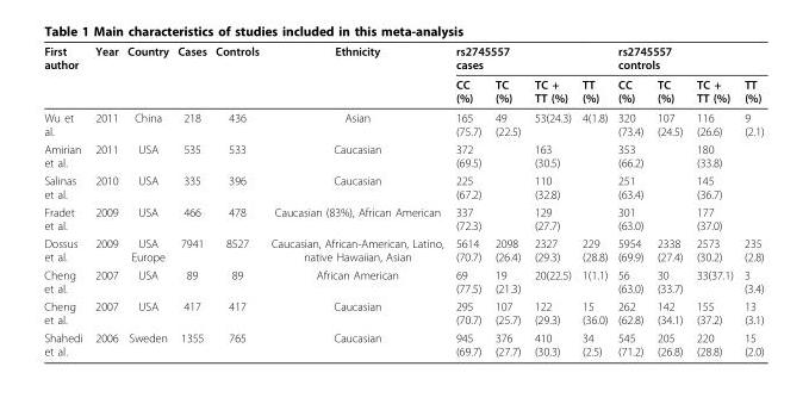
<table><thead><tr><td rowspan="2">First author</td><td rowspan="2">Year</td><td rowspan="2">Country</td><td rowspan="2">Cases</td><td rowspan="2">Controls</td><td rowspan="2">Ethnicity</td><td colspan="2">rs2745557 cases</td><td rowspan="2">TC + TT (%)</td><td rowspan="2">TT (%)</td><td colspan="2">rs2745557 controls</td><td rowspan="2">TC + TT (%)</td><td rowspan="2">TT (%)</td></tr><tr><td>CC (%)</td><td>TC (%)</td><td>CC (%)</td><td>TC (%)</td></tr></thead><tbody><tr><td>Wu et al.</td><td>2011</td><td>China</td><td>218</td><td>436</td><td>Asian</td><td>165 (75.7)</td><td>49 (22.5)</td><td>53(24.3)</td><td>4(1.8)</td><td>320 (73.4)</td><td>107 (24.5)</td><td>116 (26.6)</td><td>9 (2.1)</td></tr><tr><td>Amirian et al.</td><td>2011</td><td>USA</td><td>535</td><td>533</td><td>Caucasian</td><td>372 (69.5)</td><td></td><td>163 (30.5)</td><td></td><td>353 (66.2)</td><td></td><td>180 (33.8)</td><td></td></tr><tr><td>Salinas et al.</td><td>2010</td><td>USA</td><td>335</td><td>396</td><td>Caucasian</td><td>225 (67.2)</td><td></td><td>110 (32.8)</td><td></td><td>251 (63.4)</td><td></td><td>145 (36.7)</td><td></td></tr><tr><td>Fradet et al.</td><td>2009</td><td>USA</td><td>466</td><td>478</td><td>Caucasian (83%), African American</td><td>337 (72.3)</td><td></td><td>129 (27.7)</td><td></td><td>301 (63.0)</td><td></td><td>177 (37.0)</td><td></td></tr><tr><td>Dossus et al.</td><td>2009</td><td>USA Europe</td><td>7941</td><td>8527</td><td>Caucasian, African-American, Latino, native Hawaiian, Asian</td><td>5614 (70.7)</td><td>2098 (26.4)</td><td>2327 (29.3)</td><td>229 (28.8)</td><td>5954 (69.9)</td><td>2338 (27.4)</td><td>2573 (30.2)</td><td>235 (2.8)</td></tr><tr><td>Cheng et al.</td><td>2007</td><td>USA</td><td>89</td><td>89</td><td>African American</td><td>69 (77.5)</td><td>19 (21.3)</td><td>20(22.5)</td><td>1(1.1)</td><td>56 (63.0)</td><td>30 (33.7)</td><td>33(37.1)</td><td>3 (3.4)</td></tr><tr><td>Cheng et al.</td><td>2007</td><td>USA</td><td>417</td><td>417</td><td>Caucasian</td><td>295 (70.7)</td><td>107 (25.7)</td><td>122 (29.3)</td><td>15 (36.0)</td><td>262 (62.8)</td><td>142 (34.1)</td><td>155 (37.2)</td><td>13 (3.1)</td></tr><tr><td>Shahedi et al.</td><td>2006</td><td>Sweden</td><td>1355</td><td>765</td><td>Caucasian</td><td>945 (69.7)</td><td>376 (27.7)</td><td>410 (30.3)</td><td>34 (2.5)</td><td>545 (71.2)</td><td>205 (26.8)</td><td>220 (28.8)</td><td>15 (2.0)</td></tr></tbody></table>